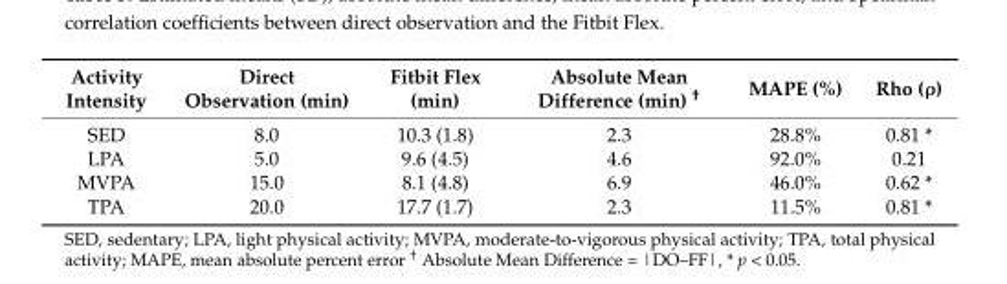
<table><thead><tr><td>Activity Intensity</td><td>Direct Observation (min)</td><td>Fitbit Flex (min)</td><td>Absolute Mean Difference (min) <sup>†</sup></td><td>MAPE (%)</td><td>Rho (ρ)</td></tr></thead><tbody><tr><td>SED</td><td>8.0</td><td>10.3 (1.8)</td><td>2.3</td><td>28.8%</td><td>0.81 *</td></tr><tr><td>LPA</td><td>5.0</td><td>9.6 (4.5)</td><td>4.6</td><td>92.0%</td><td>0.21</td></tr><tr><td>MVPA</td><td>15.0</td><td>8.1 (4.8)</td><td>6.9</td><td>46.0%</td><td>0.62 *</td></tr><tr><td>TPA</td><td>20.0</td><td>17.7 (1.7)</td><td>2.3</td><td>11.5%</td><td>0.81 *</td></tr></tbody></table>